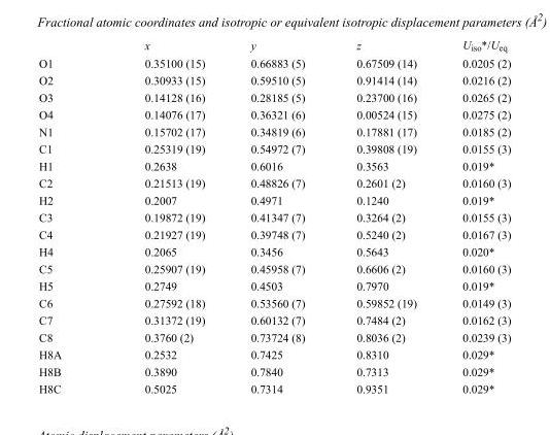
<table><thead><tr><td></td><td>x</td><td>y</td><td>z</td><td>U<sub>iso</sub>*/U<sub>eq</sub></td></tr></thead><tbody><tr><td>O1</td><td>0.35100 (15)</td><td>0.66883 (5)</td><td>0.67509 (14)</td><td>0.0205 (2)</td></tr><tr><td>O2</td><td>0.30933 (15)</td><td>0.59510 (5)</td><td>0.91414 (14)</td><td>0.0216 (2)</td></tr><tr><td>O3</td><td>0.14128 (16)</td><td>0.28185 (5)</td><td>0.23700 (16)</td><td>0.0265 (2)</td></tr><tr><td>O4</td><td>0.14076 (17)</td><td>0.36321 (6)</td><td>0.00524 (15)</td><td>0.0275 (2)</td></tr><tr><td>N1</td><td>0.15702 (17)</td><td>0.34819 (6)</td><td>0.17881 (17)</td><td>0.0185 (2)</td></tr><tr><td>C1</td><td>0.25319 (19)</td><td>0.54972 (7)</td><td>0.39808 (19)</td><td>0.0155 (3)</td></tr><tr><td>H1</td><td>0.2638</td><td>0.6016</td><td>0.3563</td><td>0.019*</td></tr><tr><td>C2</td><td>0.21513 (19)</td><td>0.48826 (7)</td><td>0.2601 (2)</td><td>0.0160 (3)</td></tr><tr><td>H2</td><td>0.2007</td><td>0.4971</td><td>0.1240</td><td>0.019*</td></tr><tr><td>C3</td><td>0.19872 (19)</td><td>0.41347 (7)</td><td>0.3264 (2)</td><td>0.0155 (3)</td></tr><tr><td>C4</td><td>0.21927 (19)</td><td>0.39748 (7)</td><td>0.5240 (2)</td><td>0.0167 (3)</td></tr><tr><td>H4</td><td>0.2065</td><td>0.3456</td><td>0.5643</td><td>0.020*</td></tr><tr><td>C5</td><td>0.25907 (19)</td><td>0.45958 (7)</td><td>0.6606 (2)</td><td>0.0160 (3)</td></tr><tr><td>H5</td><td>0.2749</td><td>0.4503</td><td>0.7970</td><td>0.019*</td></tr><tr><td>C6</td><td>0.27592 (18)</td><td>0.53560 (7)</td><td>0.59852 (19)</td><td>0.0149 (3)</td></tr><tr><td>C7</td><td>0.31372 (19)</td><td>0.60132 (7)</td><td>0.7484 (2)</td><td>0.0162 (3)</td></tr><tr><td>C8</td><td>0.3760 (2)</td><td>0.73724 (8)</td><td>0.8036 (2)</td><td>0.0239 (3)</td></tr><tr><td>H8A</td><td>0.2532</td><td>0.7425</td><td>0.8310</td><td>0.029*</td></tr><tr><td>H8B</td><td>0.3890</td><td>0.7840</td><td>0.7313</td><td>0.029*</td></tr><tr><td>H8C</td><td>0.5025</td><td>0.7314</td><td>0.9351</td><td>0.029*</td></tr></tbody></table>